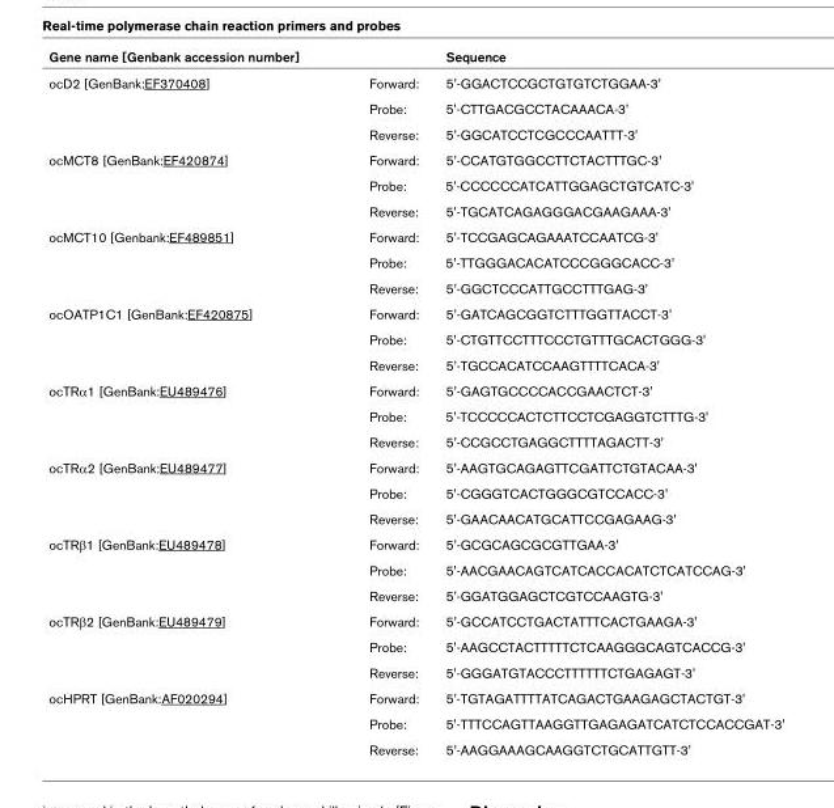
<table><thead><tr><td>Gene name [Genbank accession number]</td><td></td><td>Sequence</td></tr></thead><tbody><tr><td rowspan="3">ocD2 [GenBank:EF370408]</td><td>Forward:</td><td>5&#x27;-GGACTCCGCTGTGTCTGGAA-3&#x27;</td></tr><tr><td>Probe:</td><td>5&#x27;-CTTGACGCCTACAAACA-3&#x27;</td></tr><tr><td>Reverse:</td><td>5&#x27;-GGCATCCTCGCCCAATTT-3&#x27;</td></tr><tr><td rowspan="3">ocMCT8 [GenBank:EF420874]</td><td>Forward:</td><td>5&#x27;-CCATGTGGCCTTCTACTTTGC-3&#x27;</td></tr><tr><td>Probe:</td><td>5&#x27;-CCCCCCATCATTGGAGCTGTCATC-3&#x27;</td></tr><tr><td>Reverse:</td><td>5&#x27;-TGCATCAGAGGGACGAAGAAA-3&#x27;</td></tr><tr><td rowspan="3">ocMCT10 [Genbank:EF489851]</td><td>Forward:</td><td>5&#x27;-TCCGAGCAGAAATCCAATCG-3&#x27;</td></tr><tr><td>Probe:</td><td>5&#x27;-TTGGGACACATCCCGGGCACC-3&#x27;</td></tr><tr><td>Reverse:</td><td>5&#x27;-GGCTCCCATTGCCTTTGAG-3&#x27;</td></tr><tr><td rowspan="3">ocOATP1C1 [GenBank:EF420875]</td><td>Forward:</td><td>5&#x27;-GATCAGCGGTCTTTGGTTACCT-3&#x27;</td></tr><tr><td>Probe:</td><td>5&#x27;-CTGTTCCTTTCCCTGTTTGCACTGGG-3&#x27;</td></tr><tr><td>Reverse:</td><td>5&#x27;-TGCCACATCCAAGTTTTCACA-3&#x27;</td></tr><tr><td rowspan="3">ocTRα1 [GenBank:EU489476]</td><td>Forward:</td><td>5&#x27;-GAGTGCCCCACCGAACTCT-3&#x27;</td></tr><tr><td>Probe:</td><td>5&#x27;-TCCCCCACTCTTCCTCGAGGTCTTTG-3&#x27;</td></tr><tr><td>Reverse:</td><td>5&#x27;-CCGCCTGAGGCTTTTAGACTT-3&#x27;</td></tr><tr><td rowspan="3">ocTRα2 [GenBank:EU489477]</td><td>Forward:</td><td>5&#x27;-AAGTGCAGAGTTCGATTCTGTACAA-3&#x27;</td></tr><tr><td>Probe:</td><td>5&#x27;-CGGGTCACTGGGCGTCCACC-3&#x27;</td></tr><tr><td>Reverse:</td><td>5&#x27;-GAACAACATGCATTCCGAGAAG-3&#x27;</td></tr><tr><td rowspan="3">ocTRβ1 [GenBank:EU489478]</td><td>Forward:</td><td>5&#x27;-GCGCAGCGCGTTGAA-3&#x27;</td></tr><tr><td>Probe:</td><td>5&#x27;-AACGAACAGTCATCACCACATCTCATCCAG-3&#x27;</td></tr><tr><td>Reverse:</td><td>5&#x27;-GGATGGAGCTCGTCCAAGTG-3&#x27;</td></tr><tr><td rowspan="3">ocTRβ2 [GenBank:EU489479]</td><td>Forward:</td><td>5&#x27;-GCCATCCTGACTATTTCACTGAAGA-3&#x27;</td></tr><tr><td>Probe:</td><td>5&#x27;-AAGCCTACTTTTTCTCAAGGGCAGTCACCG-3&#x27;</td></tr><tr><td>Reverse:</td><td>5&#x27;-GGGATGTACCCTTTTTTCTGAGAGT-3&#x27;</td></tr><tr><td rowspan="3">ocHPRT [GenBank:AF020294]</td><td>Forward:</td><td>5&#x27;-TGTAGATTTTATCAGACTGAAGAGCTACTGT-3&#x27;</td></tr><tr><td>Probe:</td><td>5&#x27;-TTTCCAGTTAAGGTTGAGAGATCATCTCCACCGAT-3&#x27;</td></tr><tr><td>Reverse:</td><td>5&#x27;-AAGGAAAGCAAGGTCTGCATTGTT-3&#x27;</td></tr></tbody></table>